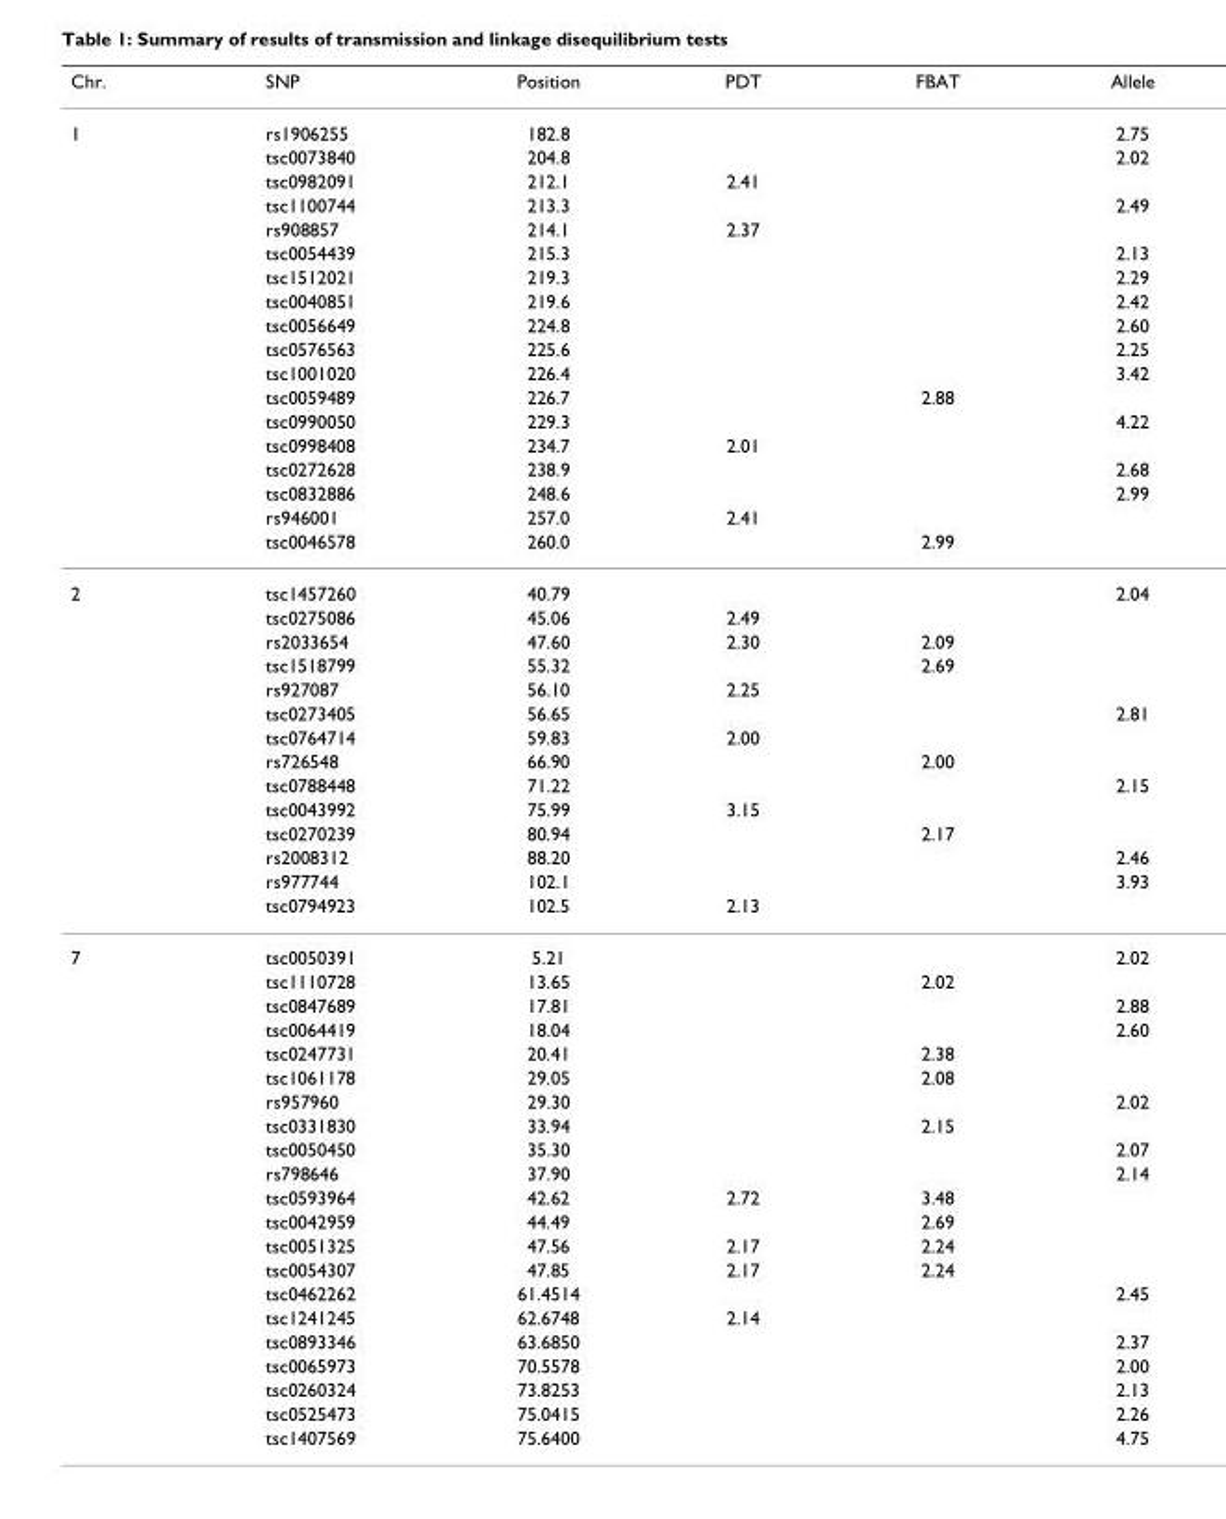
<table><thead><tr><td>Chr.</td><td>SNP</td><td>Position</td><td>PDT</td><td>FBAT</td><td>Allele</td></tr></thead><tbody><tr><td rowspan="18">1</td><td>rs1906255</td><td>182.8</td><td></td><td></td><td>2.75</td></tr><tr><td>tsc0073840</td><td>204.8</td><td></td><td></td><td>2.02</td></tr><tr><td>tsc0982091</td><td>212.1</td><td>2.41</td><td></td><td></td></tr><tr><td>tsc1100744</td><td>213.3</td><td></td><td></td><td>2.49</td></tr><tr><td>rs908857</td><td>214.1</td><td>2.37</td><td></td><td></td></tr><tr><td>tsc0054439</td><td>215.3</td><td></td><td></td><td>2.13</td></tr><tr><td>tsc1512021</td><td>219.3</td><td></td><td></td><td>2.29</td></tr><tr><td>tsc0040851</td><td>219.6</td><td></td><td></td><td>2.42</td></tr><tr><td>tsc0056649</td><td>224.8</td><td></td><td></td><td>2.60</td></tr><tr><td>tsc0576563</td><td>225.6</td><td></td><td></td><td>2.25</td></tr><tr><td>tsc1001020</td><td>226.4</td><td></td><td></td><td>3.42</td></tr><tr><td>tsc0059489</td><td>226.7</td><td></td><td>2.88</td><td></td></tr><tr><td>tsc0990050</td><td>229.3</td><td></td><td></td><td>4.22</td></tr><tr><td>tsc0998408</td><td>234.7</td><td>2.01</td><td></td><td></td></tr><tr><td>tsc0272628</td><td>238.9</td><td></td><td></td><td>2.68</td></tr><tr><td>tsc0832886</td><td>248.6</td><td></td><td></td><td>2.99</td></tr><tr><td>rs946001</td><td>257.0</td><td>2.41</td><td></td><td></td></tr><tr><td>tsc0046578</td><td>260.0</td><td></td><td>2.99</td><td></td></tr><tr><td rowspan="14">2</td><td>tsc1457260</td><td>40.79</td><td></td><td></td><td>2.04</td></tr><tr><td>tsc0275086</td><td>45.06</td><td>2.49</td><td></td><td></td></tr><tr><td>rs2033654</td><td>47.60</td><td>2.30</td><td>2.09</td><td></td></tr><tr><td>tsc1518799</td><td>55.32</td><td></td><td>2.69</td><td></td></tr><tr><td>rs927087</td><td>56.10</td><td>2.25</td><td></td><td></td></tr><tr><td>tsc0273405</td><td>56.65</td><td></td><td></td><td>2.81</td></tr><tr><td>tsc0764714</td><td>59.83</td><td>2.00</td><td></td><td></td></tr><tr><td>rs726548</td><td>66.90</td><td></td><td>2.00</td><td></td></tr><tr><td>tsc0788448</td><td>71.22</td><td></td><td></td><td>2.15</td></tr><tr><td>tsc0043992</td><td>75.99</td><td>3.15</td><td></td><td></td></tr><tr><td>tsc0270239</td><td>80.94</td><td></td><td>2.17</td><td></td></tr><tr><td>rs2008312</td><td>88.20</td><td></td><td></td><td>2.46</td></tr><tr><td>rs977744</td><td>102.1</td><td></td><td></td><td>3.93</td></tr><tr><td>tsc0794923</td><td>102.5</td><td>2.13</td><td></td><td></td></tr><tr><td rowspan="21">7</td><td>tsc0050391</td><td>5.21</td><td></td><td></td><td>2.02</td></tr><tr><td>tsc1110728</td><td>13.65</td><td></td><td>2.02</td><td></td></tr><tr><td>tsc0847689</td><td>17.81</td><td></td><td></td><td>2.88</td></tr><tr><td>tsc0064419</td><td>18.04</td><td></td><td></td><td>2.60</td></tr><tr><td>tsc0247731</td><td>20.41</td><td></td><td>2.38</td><td></td></tr><tr><td>tsc1061178</td><td>29.05</td><td></td><td>2.08</td><td></td></tr><tr><td>rs957960</td><td>29.30</td><td></td><td></td><td>2.02</td></tr><tr><td>tsc0331830</td><td>33.94</td><td></td><td>2.15</td><td></td></tr><tr><td>tsc0050450</td><td>35.30</td><td></td><td></td><td>2.07</td></tr><tr><td>rs798646</td><td>37.90</td><td></td><td></td><td>2.14</td></tr><tr><td>tsc0593964</td><td>42.62</td><td>2.72</td><td>3.48</td><td></td></tr><tr><td>tsc0042959</td><td>44.49</td><td></td><td>2.69</td><td></td></tr><tr><td>tsc0051325</td><td>47.56</td><td>2.17</td><td>2.24</td><td></td></tr><tr><td>tsc0054307</td><td>47.85</td><td>2.17</td><td>2.24</td><td></td></tr><tr><td>tsc0462262</td><td>61.4514</td><td></td><td></td><td>2.45</td></tr><tr><td>tsc1241245</td><td>62.6748</td><td>2.14</td><td></td><td></td></tr><tr><td>tsc0893346</td><td>63.6850</td><td></td><td></td><td>2.37</td></tr><tr><td>tsc0065973</td><td>70.5578</td><td></td><td></td><td>2.00</td></tr><tr><td>tsc0260324</td><td>73.8253</td><td></td><td></td><td>2.13</td></tr><tr><td>tsc0525473</td><td>75.0415</td><td></td><td></td><td>2.26</td></tr><tr><td>tsc1407569</td><td>75.6400</td><td></td><td></td><td>4.75</td></tr></tbody></table>